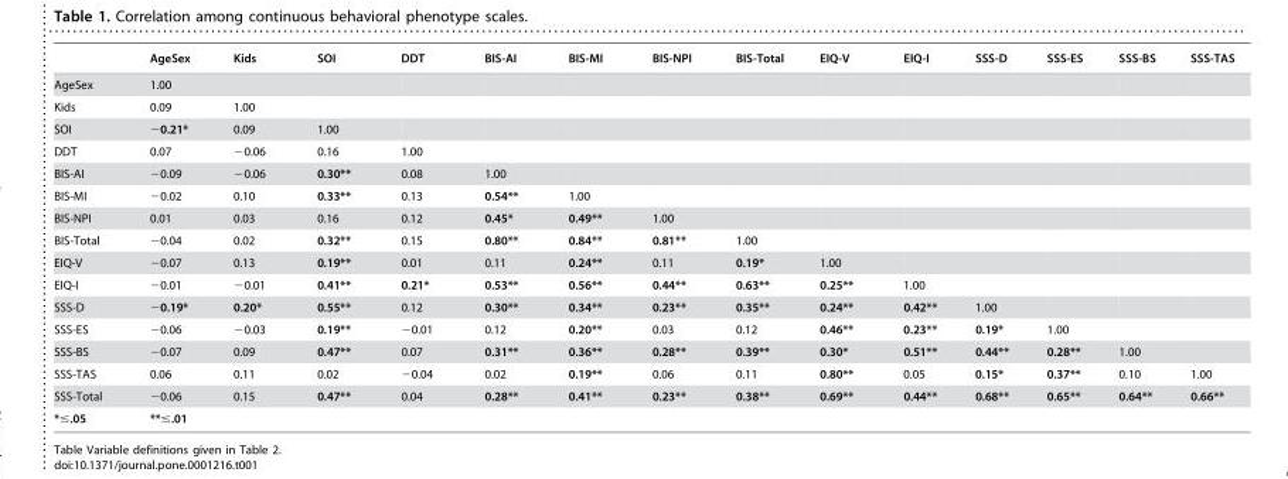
<table><thead><tr><td></td><td>AgeSex</td><td>Kids</td><td>SOI</td><td>DDT</td><td>BIS-AI</td><td>BIS-MI</td><td>BIS-NPI</td><td>BIS-Total</td><td>EIQ-V</td><td>EIQ-I</td><td>SSS-D</td><td>SSS-ES</td><td>SSS-BS</td><td>SSS-TAS</td></tr></thead><tbody><tr><td>AgeSex</td><td>1.00</td><td></td><td></td><td></td><td></td><td></td><td></td><td></td><td></td><td></td><td></td><td></td><td></td><td></td></tr><tr><td>Kids</td><td>0.09</td><td>1.00</td><td></td><td></td><td></td><td></td><td></td><td></td><td></td><td></td><td></td><td></td><td></td><td></td></tr><tr><td>SOI</td><td>−0.21*</td><td>0.09</td><td>1.00</td><td></td><td></td><td></td><td></td><td></td><td></td><td></td><td></td><td></td><td></td><td></td></tr><tr><td>DDT</td><td>0.07</td><td>−0.06</td><td>0.16</td><td>1.00</td><td></td><td></td><td></td><td></td><td></td><td></td><td></td><td></td><td></td><td></td></tr><tr><td>BIS-AI</td><td>−0.09</td><td>−0.06</td><td>0.30**</td><td>0.08</td><td>1.00</td><td></td><td></td><td></td><td></td><td></td><td></td><td></td><td></td><td></td></tr><tr><td>BIS-MI</td><td>−0.02</td><td>0.10</td><td>0.33**</td><td>0.13</td><td>0.54**</td><td>1.00</td><td></td><td></td><td></td><td></td><td></td><td></td><td></td><td></td></tr><tr><td>BIS-NPI</td><td>0.01</td><td>0.03</td><td>0.16</td><td>0.12</td><td>0.45*</td><td>0.49**</td><td>1.00</td><td></td><td></td><td></td><td></td><td></td><td></td><td></td></tr><tr><td>BIS-Total</td><td>−0.04</td><td>0.02</td><td>0.32**</td><td>0.15</td><td>0.80**</td><td>0.84**</td><td>0.81**</td><td>1.00</td><td></td><td></td><td></td><td></td><td></td><td></td></tr><tr><td>EIQ-V</td><td>−0.07</td><td>0.13</td><td>0.19**</td><td>0.01</td><td>0.11</td><td>0.24**</td><td>0.11</td><td>0.19*</td><td>1.00</td><td></td><td></td><td></td><td></td><td></td></tr><tr><td>EIQ-I</td><td>−0.01</td><td>−0.01</td><td>0.41**</td><td>0.21*</td><td>0.53**</td><td>0.56**</td><td>0.44**</td><td>0.63**</td><td>0.25**</td><td>1.00</td><td></td><td></td><td></td><td></td></tr><tr><td>SSS-D</td><td>−0.19*</td><td>0.20*</td><td>0.55**</td><td>0.12</td><td>0.30**</td><td>0.34**</td><td>0.23**</td><td>0.35**</td><td>0.24**</td><td>0.42**</td><td>1.00</td><td></td><td></td><td></td></tr><tr><td>SSS-ES</td><td>−0.06</td><td>−0.03</td><td>0.19**</td><td>−0.01</td><td>0.12</td><td>0.20**</td><td>0.03</td><td>0.12</td><td>0.46**</td><td>0.23**</td><td>0.19*</td><td>1.00</td><td></td><td></td></tr><tr><td>SSS-BS</td><td>−0.07</td><td>0.09</td><td>0.47**</td><td>0.07</td><td>0.31**</td><td>0.36**</td><td>0.28**</td><td>0.39**</td><td>0.30*</td><td>0.51**</td><td>0.44**</td><td>0.28**</td><td>1.00</td><td></td></tr><tr><td>SSS-TAS</td><td>0.06</td><td>0.11</td><td>0.02</td><td>−0.04</td><td>0.02</td><td>0.19**</td><td>0.06</td><td>0.11</td><td>0.80**</td><td>0.05</td><td>0.15*</td><td>0.37**</td><td>0.10</td><td>1.00</td></tr><tr><td>SSS-Total</td><td>−0.06</td><td>0.15</td><td>0.47**</td><td>0.04</td><td>0.28**</td><td>0.41**</td><td>0.23**</td><td>0.38**</td><td>0.69**</td><td>0.44**</td><td>0.68**</td><td>0.65**</td><td>0.64**</td><td>0.66**</td></tr><tr><td>*≤.05</td><td>**≤.01</td><td></td><td></td><td></td><td></td><td></td><td></td><td></td><td></td><td></td><td></td><td></td><td></td><td></td></tr></tbody></table>